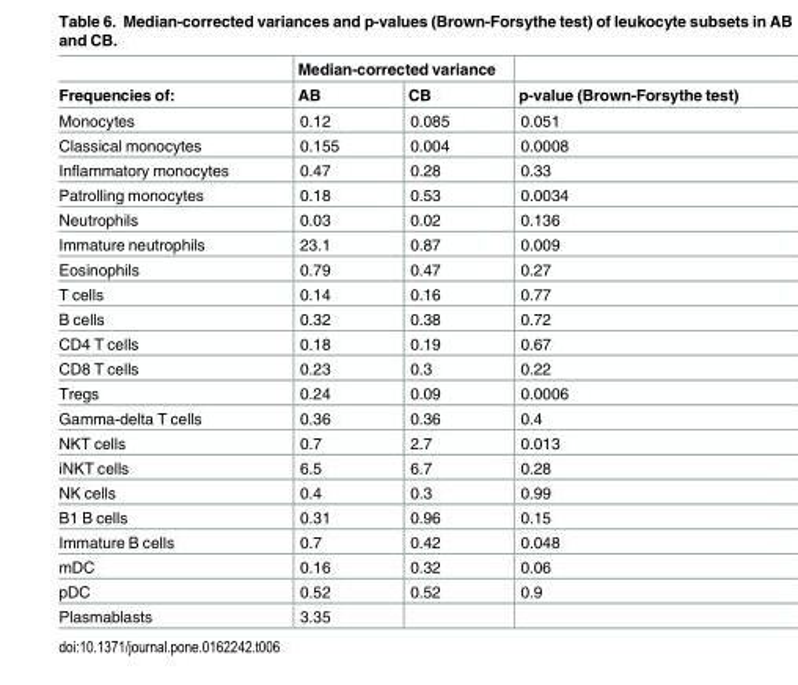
<table><thead><tr><td rowspan="2">Frequencies of:</td><td colspan="2">Median-corrected variance</td><td rowspan="2">p-value (Brown-Forsythe test)</td></tr><tr><td>AB</td><td>CB</td></tr></thead><tbody><tr><td>Monocytes</td><td>0.12</td><td>0.085</td><td>0.051</td></tr><tr><td>Classical monocytes</td><td>0.155</td><td>0.004</td><td>0.0008</td></tr><tr><td>Inflammatory monocytes</td><td>0.47</td><td>0.28</td><td>0.33</td></tr><tr><td>Patrolling monocytes</td><td>0.18</td><td>0.53</td><td>0.0034</td></tr><tr><td>Neutrophils</td><td>0.03</td><td>0.02</td><td>0.136</td></tr><tr><td>Immature neutrophils</td><td>23.1</td><td>0.87</td><td>0.009</td></tr><tr><td>Eosinophils</td><td>0.79</td><td>0.47</td><td>0.27</td></tr><tr><td>T cells</td><td>0.14</td><td>0.16</td><td>0.77</td></tr><tr><td>B cells</td><td>0.32</td><td>0.38</td><td>0.72</td></tr><tr><td>CD4 T cells</td><td>0.18</td><td>0.19</td><td>0.67</td></tr><tr><td>CD8 T cells</td><td>0.23</td><td>0.3</td><td>0.22</td></tr><tr><td>Tregs</td><td>0.24</td><td>0.09</td><td>0.0006</td></tr><tr><td>Gamma-delta T cells</td><td>0.36</td><td>0.36</td><td>0.4</td></tr><tr><td>NKT cells</td><td>0.7</td><td>2.7</td><td>0.013</td></tr><tr><td>iNKT cells</td><td>6.5</td><td>6.7</td><td>0.28</td></tr><tr><td>NK cells</td><td>0.4</td><td>0.3</td><td>0.99</td></tr><tr><td>B1 B cells</td><td>0.31</td><td>0.96</td><td>0.15</td></tr><tr><td>Immature B cells</td><td>0.7</td><td>0.42</td><td>0.048</td></tr><tr><td>mDC</td><td>0.16</td><td>0.32</td><td>0.06</td></tr><tr><td>pDC</td><td>0.52</td><td>0.52</td><td>0.9</td></tr><tr><td>Plasmablasts</td><td>3.35</td><td></td><td></td></tr></tbody></table>